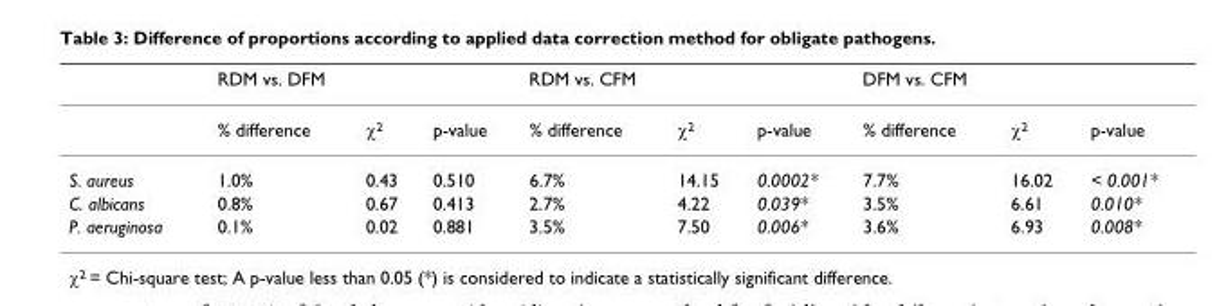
<table><thead><tr><td rowspan="2"></td><td colspan="3">RDM vs. DFM</td><td colspan="3">RDM vs. CFM</td><td colspan="3">DFM vs. CFM</td></tr><tr><td>% difference</td><td>χ<sup>2</sup></td><td>p-value</td><td>% difference</td><td>χ<sup>2</sup></td><td>p-value</td><td>% difference</td><td>χ<sup>2</sup></td><td>p-value</td></tr></thead><tbody><tr><td>S. aureus</td><td>1.0%</td><td>0.43</td><td>0.510</td><td>6.7%</td><td>14.15</td><td>0.0002*</td><td>7.7%</td><td>16.02</td><td>&lt; 0.001*</td></tr><tr><td>C. albicans</td><td>0.8%</td><td>0.67</td><td>0.413</td><td>2.7%</td><td>4.22</td><td>0.039*</td><td>3.5%</td><td>6.61</td><td>0.010*</td></tr><tr><td>P. aeruginosa</td><td>0.1%</td><td>0.02</td><td>0.881</td><td>3.5%</td><td>7.50</td><td>0.006*</td><td>3.6%</td><td>6.93</td><td>0.008*</td></tr></tbody></table>